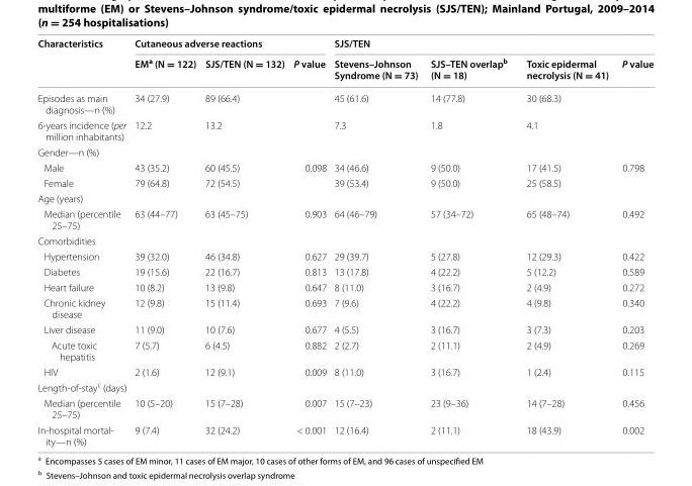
<table><thead><tr><td rowspan="2">Characteristics</td><td colspan="3">Cutaneous adverse reactions</td><td colspan="4">SJS/TEN</td></tr><tr><td>EM<sup>a</sup> (N = 122)</td><td>SJS/TEN (N = 132)</td><td>P value</td><td>Stevens–Johnson Syndrome (N = 73)</td><td>SJS–TEN overlap<sup>b</sup> (N = 18)</td><td>Toxic epidermal necrolysis (N = 41)</td><td>P value</td></tr></thead><tbody><tr><td>Episodes as main diagnosis—n (%)</td><td>34 (27.9)</td><td>89 (66.4)</td><td></td><td>45 (61.6)</td><td>14 (77.8)</td><td>30 (68.3)</td><td></td></tr><tr><td>6‑years incidence (per million inhabitants)</td><td>12.2</td><td>13.2</td><td></td><td>7.3</td><td>1.8</td><td>4.1</td><td></td></tr><tr><td colspan="8">Gender—n (%)</td></tr><tr><td>Male</td><td>43 (35.2)</td><td>60 (45.5)</td><td>0.098</td><td>34 (46.6)</td><td>9 (50.0)</td><td>17 (41.5)</td><td>0.798</td></tr><tr><td>Female</td><td>79 (64.8)</td><td>72 (54.5)</td><td></td><td>39 (53.4)</td><td>9 (50.0)</td><td>25 (58.5)</td><td></td></tr><tr><td colspan="8">Age (years)</td></tr><tr><td>Median (percentile 25–75)</td><td>63 (44–77)</td><td>63 (45–75)</td><td>0.903</td><td>64 (46–79)</td><td>57 (34–72)</td><td>65 (48–74)</td><td>0.492</td></tr><tr><td colspan="8">Comorbidities</td></tr><tr><td>Hypertension</td><td>39 (32.0)</td><td>46 (34.8)</td><td>0.627</td><td>29 (39.7)</td><td>5 (27.8)</td><td>12 (29.3)</td><td>0.422</td></tr><tr><td>Diabetes</td><td>19 (15.6)</td><td>22 (16.7)</td><td>0.813</td><td>13 (17.8)</td><td>4 (22.2)</td><td>5 (12.2)</td><td>0.589</td></tr><tr><td>Heart failure</td><td>10 (8.2)</td><td>13 (9.8)</td><td>0.647</td><td>8 (11.0)</td><td>3 (16.7)</td><td>2 (4.9)</td><td>0.272</td></tr><tr><td>Chronic kidney disease</td><td>12 (9.8)</td><td>15 (11.4)</td><td>0.693</td><td>7 (9.6)</td><td>4 (22.2)</td><td>4 (9.8)</td><td>0.340</td></tr><tr><td>Liver disease</td><td>11 (9.0)</td><td>10 (7.6)</td><td>0.677</td><td>4 (5.5)</td><td>3 (16.7)</td><td>3 (7.3)</td><td>0.203</td></tr><tr><td>Acute toxic hepatitis</td><td>7 (5.7)</td><td>6 (4.5)</td><td>0.882</td><td>2 (2.7)</td><td>2 (11.1)</td><td>2 (4.9)</td><td>0.269</td></tr><tr><td>HIV</td><td>2 (1.6)</td><td>12 (9.1)</td><td>0.009</td><td>8 (11.0)</td><td>3 (16.7)</td><td>1 (2.4)</td><td>0.115</td></tr><tr><td colspan="8">Length‑of‑stay<sup>c</sup> (days)</td></tr><tr><td>Median (percentile 25–75)</td><td>10 (5–20)</td><td>15 (7–28)</td><td>0.007</td><td>15 (7–23)</td><td>23 (9–36)</td><td>14 (7–28)</td><td>0.456</td></tr><tr><td>In‑hospital mortal‑ ity—n (%)</td><td>9 (7.4)</td><td>32 (24.2)</td><td>&lt; 0.001</td><td>12 (16.4)</td><td>2 (11.1)</td><td>18 (43.9)</td><td>0.002</td></tr></tbody></table>